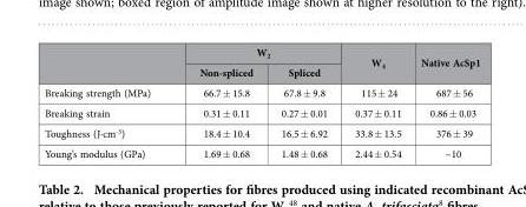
<table><thead><tr><td rowspan="2"></td><td colspan="2">W<sub>2</sub></td><td rowspan="2">W<sub>4</sub></td><td rowspan="2">Native AcSp1</td></tr><tr><td>Non-spliced</td><td>Spliced</td></tr></thead><tbody><tr><td>Breaking strength (MPa)</td><td>66.7 ± 15.8</td><td>67.8 ± 9.8</td><td>115 ± 24</td><td>687 ± 56</td></tr><tr><td>Breaking strain</td><td>0.31 ± 0.11</td><td>0.27 ± 0.01</td><td>0.37 ± 0.11</td><td>0.86 ± 0.03</td></tr><tr><td>Toughness (J·cm<sup>-3</sup>)</td><td>18.4 ± 10.4</td><td>16.5 ± 6.92</td><td>33.8 ± 13.5</td><td>376 ± 39</td></tr><tr><td>Young’s modulus (GPa)</td><td>1.69 ± 0.68</td><td>1.48 ± 0.68</td><td>2.44 ± 0.54</td><td>~10</td></tr></tbody></table>